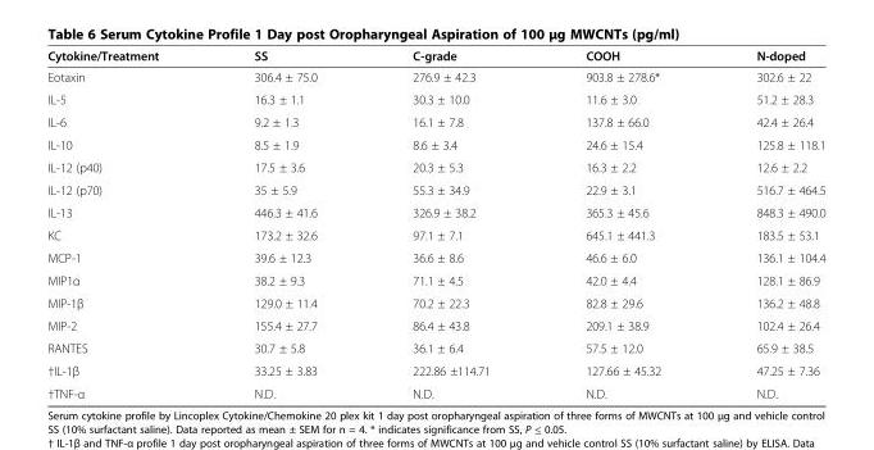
<table><thead><tr><td>Cytokine/Treatment</td><td>SS</td><td>C-grade</td><td>COOH</td><td>N-doped</td></tr></thead><tbody><tr><td>Eotaxin</td><td>306.4 ± 75.0</td><td>276.9 ± 42.3</td><td>903.8 ± 278.6*</td><td>302.6 ± 22</td></tr><tr><td>IL-5</td><td>16.3 ± 1.1</td><td>30.3 ± 10.0</td><td>11.6 ± 3.0</td><td>51.2 ± 28.3</td></tr><tr><td>IL-6</td><td>9.2 ± 1.3</td><td>16.1 ± 7.8</td><td>137.8 ± 66.0</td><td>42.4 ± 26.4</td></tr><tr><td>IL-10</td><td>8.5 ± 1.9</td><td>8.6 ± 3.4</td><td>24.6 ± 15.4</td><td>125.8 ± 118.1</td></tr><tr><td>IL-12 (p40)</td><td>17.5 ± 3.6</td><td>20.3 ± 5.3</td><td>16.3 ± 2.2</td><td>12.6 ± 2.2</td></tr><tr><td>IL-12 (p70)</td><td>35 ± 5.9</td><td>55.3 ± 34.9</td><td>22.9 ± 3.1</td><td>516.7 ± 464.5</td></tr><tr><td>IL-13</td><td>446.3 ± 41.6</td><td>326.9 ± 38.2</td><td>365.3 ± 45.6</td><td>848.3 ± 490.0</td></tr><tr><td>KC</td><td>173.2 ± 32.6</td><td>97.1 ± 7.1</td><td>645.1 ± 441.3</td><td>183.5 ± 53.1</td></tr><tr><td>MCP-1</td><td>39.6 ± 12.3</td><td>36.6 ± 8.6</td><td>46.6 ± 6.0</td><td>136.1 ± 104.4</td></tr><tr><td>MIP1α</td><td>38.2 ± 9.3</td><td>71.1 ± 4.5</td><td>42.0 ± 4.4</td><td>128.1 ± 86.9</td></tr><tr><td>MIP-1β</td><td>129.0 ± 11.4</td><td>70.2 ± 22.3</td><td>82.8 ± 29.6</td><td>136.2 ± 48.8</td></tr><tr><td>MIP-2</td><td>155.4 ± 27.7</td><td>86.4 ± 43.8</td><td>209.1 ± 38.9</td><td>102.4 ± 26.4</td></tr><tr><td>RANTES</td><td>30.7 ± 5.8</td><td>36.1 ± 6.4</td><td>57.5 ± 12.0</td><td>65.9 ± 38.5</td></tr><tr><td>†IL-1β</td><td>33.25 ± 3.83</td><td>222.86 ±114.71</td><td>127.66 ± 45.32</td><td>47.25 ± 7.36</td></tr><tr><td>†TNF-α</td><td>N.D.</td><td>N.D.</td><td>N.D.</td><td>N.D.</td></tr></tbody></table>